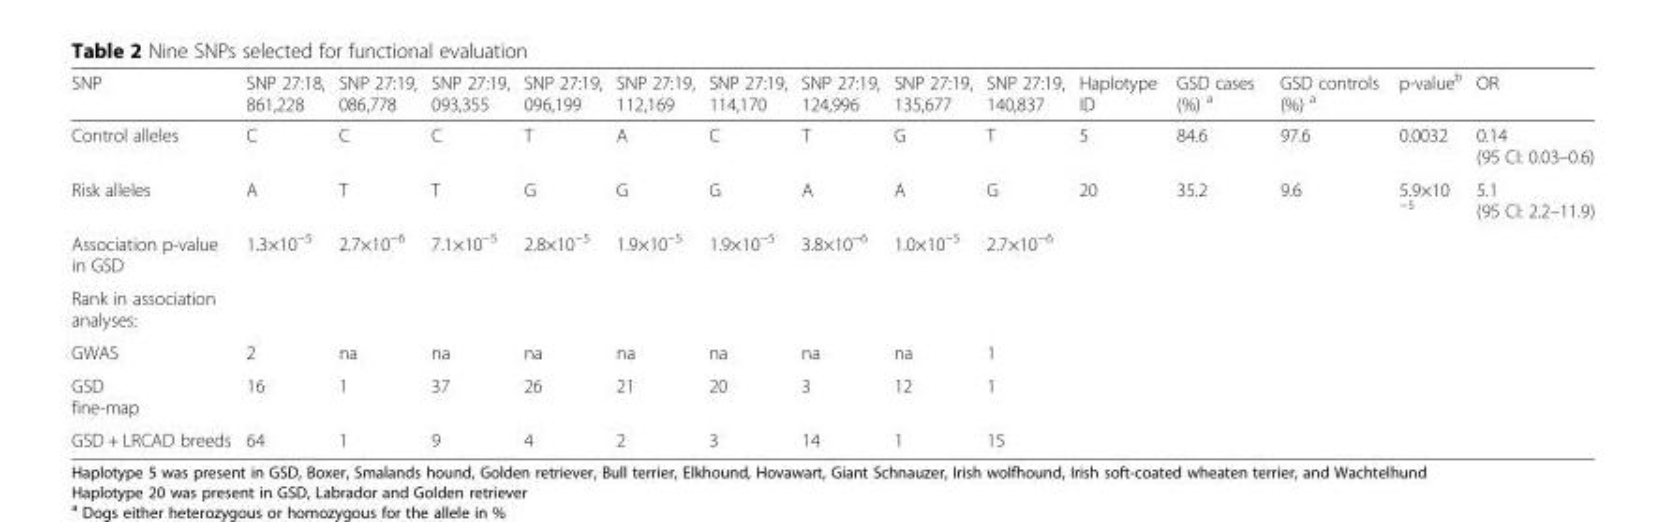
<table><thead><tr><td>SNP</td><td>SNP 27:18, 861,228</td><td>SNP 27:19, 086,778</td><td>SNP 27:19, 093,355</td><td>SNP 27:19, 096,199</td><td>SNP 27:19, 112,169</td><td>SNP 27:19, 114,170</td><td>SNP 27:19, 124,996</td><td>SNP 27:19, 135,677</td><td>SNP 27:19, 140,837</td><td>Haplotype ID</td><td>GSD cases (%) <sup>a</sup></td><td>GSD controls (%) <sup>a</sup></td><td>p-value<sup>b</sup></td><td>OR</td></tr></thead><tbody><tr><td>Control alleles</td><td>C</td><td>C</td><td>C</td><td>T</td><td>A</td><td>C</td><td>T</td><td>G</td><td>T</td><td>5</td><td>84.6</td><td>97.6</td><td>0.0032</td><td>0.14 (95 CI: 0.03–0.6)</td></tr><tr><td>Risk alleles</td><td>A</td><td>T</td><td>T</td><td>G</td><td>G</td><td>G</td><td>A</td><td>A</td><td>G</td><td>20</td><td>35.2</td><td>9.6</td><td>5.9×10 <sup>−5</sup></td><td>5.1 (95 CI: 2.2–11.9)</td></tr><tr><td>Association p-value in GSD</td><td>1.3×10<sup>−5</sup></td><td>2.7×10<sup>−6</sup></td><td>7.1×10<sup>−5</sup></td><td>2.8×10<sup>−5</sup></td><td>1.9×10<sup>−5</sup></td><td>1.9×10<sup>−5</sup></td><td>3.8×10<sup>−6</sup></td><td>1.0×10<sup>−5</sup></td><td>2.7×10<sup>−6</sup></td><td></td><td></td><td></td><td></td><td></td></tr><tr><td colspan="15">Rank in association analyses:</td></tr><tr><td>GWAS</td><td>2</td><td>na</td><td>na</td><td>na</td><td>na</td><td>na</td><td>na</td><td>na</td><td>1</td><td></td><td></td><td></td><td></td><td></td></tr><tr><td>GSD fine-map</td><td>16</td><td>1</td><td>37</td><td>26</td><td>21</td><td>20</td><td>3</td><td>12</td><td>1</td><td></td><td></td><td></td><td></td><td></td></tr><tr><td>GSD + LRCAD breeds</td><td>64</td><td>1</td><td>9</td><td>4</td><td>2</td><td>3</td><td>14</td><td>1</td><td>15</td><td></td><td></td><td></td><td></td><td></td></tr></tbody></table>